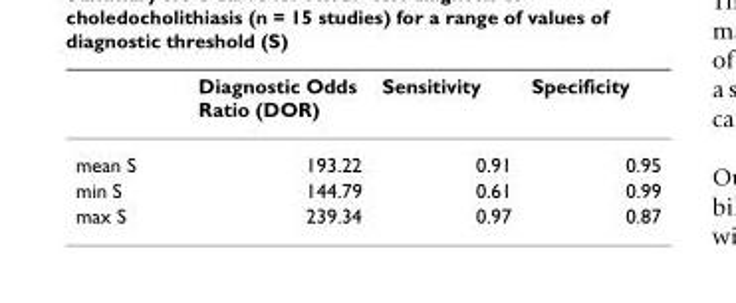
<table><thead><tr><td></td><td>Diagnostic Odds Ratio (DOR)</td><td>Sensitivity</td><td>Specificity</td></tr></thead><tbody><tr><td>mean S</td><td>193.22</td><td>0.91</td><td>0.95</td></tr><tr><td>min S</td><td>144.79</td><td>0.61</td><td>0.99</td></tr><tr><td>max S</td><td>239.34</td><td>0.97</td><td>0.87</td></tr></tbody></table>